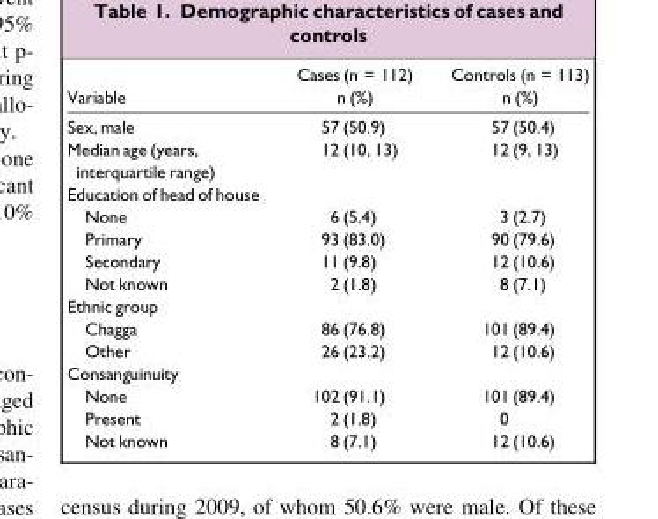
<table><thead><tr><td>Variable</td><td>Cases (n = 112) n (%)</td><td>Controls (n = 113) n (%)</td></tr></thead><tbody><tr><td>Sex, male</td><td>57 (50.9)</td><td>57 (50.4)</td></tr><tr><td>Median age (years, interquartile range)</td><td>12 (10, 13)</td><td>12 (9, 13)</td></tr><tr><td colspan="3">Education of head of house</td></tr><tr><td>None</td><td>6 (5.4)</td><td>3 (2.7)</td></tr><tr><td>Primary</td><td>93 (83.0)</td><td>90 (79.6)</td></tr><tr><td>Secondary</td><td>11 (9.8)</td><td>12 (10.6)</td></tr><tr><td>Not known</td><td>2 (1.8)</td><td>8 (7.1)</td></tr><tr><td colspan="3">Ethnic group</td></tr><tr><td>Chagga</td><td>86 (76.8)</td><td>101 (89.4)</td></tr><tr><td>Other</td><td>26 (23.2)</td><td>12 (10.6)</td></tr><tr><td colspan="3">Consanguinuity</td></tr><tr><td>None</td><td>102 (91.1)</td><td>101 (89.4)</td></tr><tr><td>Present</td><td>2 (1.8)</td><td>0</td></tr><tr><td>Not known</td><td>8 (7.1)</td><td>12 (10.6)</td></tr></tbody></table>